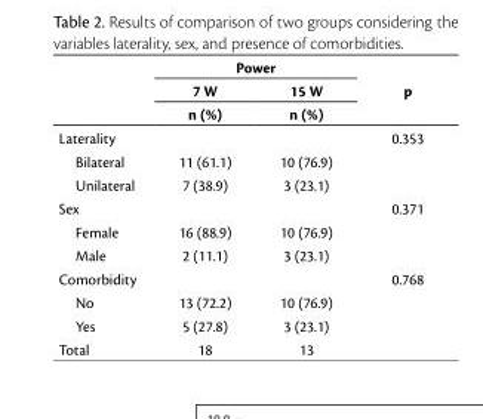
<table><thead><tr><td rowspan="3"></td><td colspan="2">Power</td><td rowspan="3">p</td></tr><tr><td rowspan="2">7 W n (%)</td><td rowspan="2">15 W n (%)</td></tr><tr></tr></thead><tbody><tr><td>Laterality</td><td></td><td></td><td>0.353</td></tr><tr><td>Bilateral</td><td>11 (61.1)</td><td>10 (76.9)</td><td></td></tr><tr><td>Unilateral</td><td>7 (38.9)</td><td>3 (23.1)</td><td></td></tr><tr><td>Sex</td><td></td><td></td><td>0.371</td></tr><tr><td>Female</td><td>16 (88.9)</td><td>10 (76.9)</td><td></td></tr><tr><td>Male</td><td>2 (11.1)</td><td>3 (23.1)</td><td></td></tr><tr><td>Comorbidity</td><td></td><td></td><td>0.768</td></tr><tr><td>No</td><td>13 (72.2)</td><td>10 (76.9)</td><td></td></tr><tr><td>Yes</td><td>5 (27.8)</td><td>3 (23.1)</td><td></td></tr><tr><td>Total</td><td>18</td><td>13</td><td></td></tr></tbody></table>